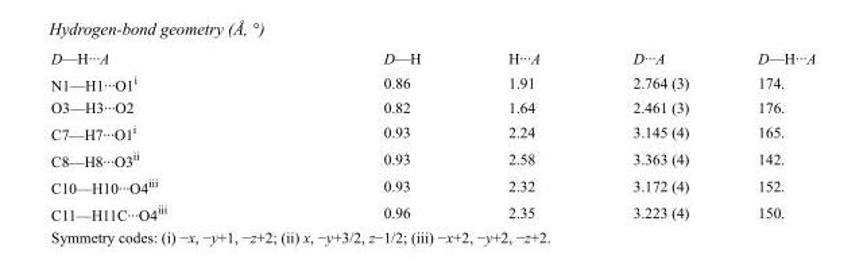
<table><tbody><tr><td>D—H···A</td><td>D—H</td><td>H···A</td><td>D···A</td><td>D—H···A</td></tr><tr><td>N1—H1···O1<sup>i</sup></td><td>0.86</td><td>1.91</td><td>2.764 (3)</td><td>174.</td></tr><tr><td>O3—H3···O2</td><td>0.82</td><td>1.64</td><td>2.461 (3)</td><td>176.</td></tr><tr><td>C7—H7···O1<sup>i</sup></td><td>0.93</td><td>2.24</td><td>3.145 (4)</td><td>165.</td></tr><tr><td>C8—H8···O3<sup>ii</sup></td><td>0.93</td><td>2.58</td><td>3.363 (4)</td><td>142.</td></tr><tr><td>C10—H10···O4<sup>iii</sup></td><td>0.93</td><td>2.32</td><td>3.172 (4)</td><td>152.</td></tr><tr><td>C11—H11C···O4<sup>iii</sup></td><td>0.96</td><td>2.35</td><td>3.223 (4)</td><td>150.</td></tr></tbody></table>